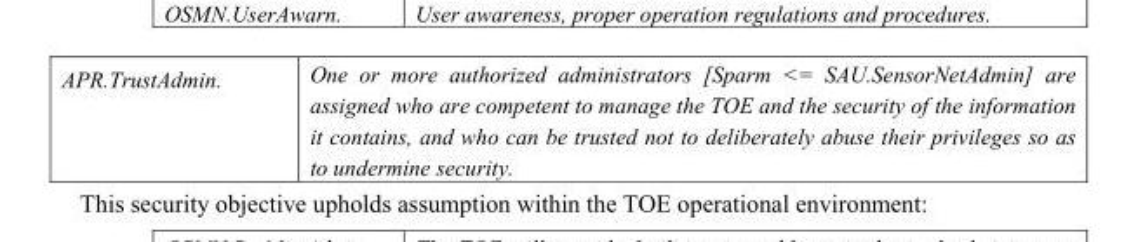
<table><tbody><tr><td>APR.TrustAdmin.</td><td>One or more authorized administrators [Sparm &lt;= SAU.SensorNetAdmin] are assigned who are competent to manage the TOE and the security of the information it contains, and who can be trusted not to deliberately abuse their privileges so as to undermine security.</td></tr></tbody></table>